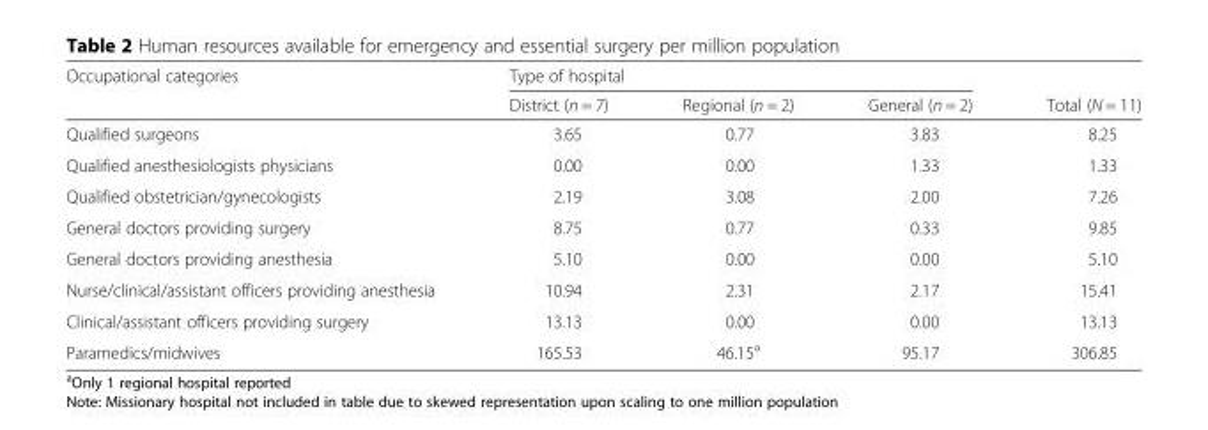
<table><thead><tr><td rowspan="2">Occupational categories</td><td colspan="3">Type of hospital</td><td rowspan="2">Total (N = 11)</td></tr><tr><td>District (n = 7)</td><td>Regional (n = 2)</td><td>General (n = 2)</td></tr></thead><tbody><tr><td>Qualified surgeons</td><td>3.65</td><td>0.77</td><td>3.83</td><td>8.25</td></tr><tr><td>Qualified anesthesiologists physicians</td><td>0.00</td><td>0.00</td><td>1.33</td><td>1.33</td></tr><tr><td>Qualified obstetrician/gynecologists</td><td>2.19</td><td>3.08</td><td>2.00</td><td>7.26</td></tr><tr><td>General doctors providing surgery</td><td>8.75</td><td>0.77</td><td>0.33</td><td>9.85</td></tr><tr><td>General doctors providing anesthesia</td><td>5.10</td><td>0.00</td><td>0.00</td><td>5.10</td></tr><tr><td>Nurse/clinical/assistant officers providing anesthesia</td><td>10.94</td><td>2.31</td><td>2.17</td><td>15.41</td></tr><tr><td>Clinical/assistant officers providing surgery</td><td>13.13</td><td>0.00</td><td>0.00</td><td>13.13</td></tr><tr><td>Paramedics/midwives</td><td>165.53</td><td>46.15<sup>a</sup></td><td>95.17</td><td>306.85</td></tr></tbody></table>